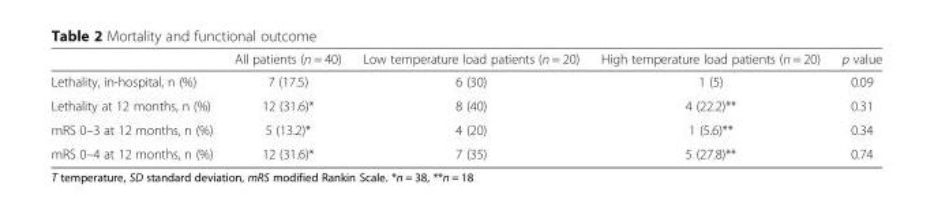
<table><thead><tr><td></td><td>All patients (n = 40)</td><td>Low temperature load patients (n = 20)</td><td>High temperature load patients (n = 20)</td><td>p value</td></tr></thead><tbody><tr><td>Lethality, in-hospital, n (%)</td><td>7 (17.5)</td><td>6 (30)</td><td>1 (5)</td><td>0.09</td></tr><tr><td>Lethality at 12 months, n (%)</td><td>12 (31.6)*</td><td>8 (40)</td><td>4 (22.2)**</td><td>0.31</td></tr><tr><td>mRS 0–3 at 12 months, n (%)</td><td>5 (13.2)*</td><td>4 (20)</td><td>1 (5.6)**</td><td>0.34</td></tr><tr><td>mRS 0–4 at 12 months, n (%)</td><td>12 (31.6)*</td><td>7 (35)</td><td>5 (27.8)**</td><td>0.74</td></tr></tbody></table>